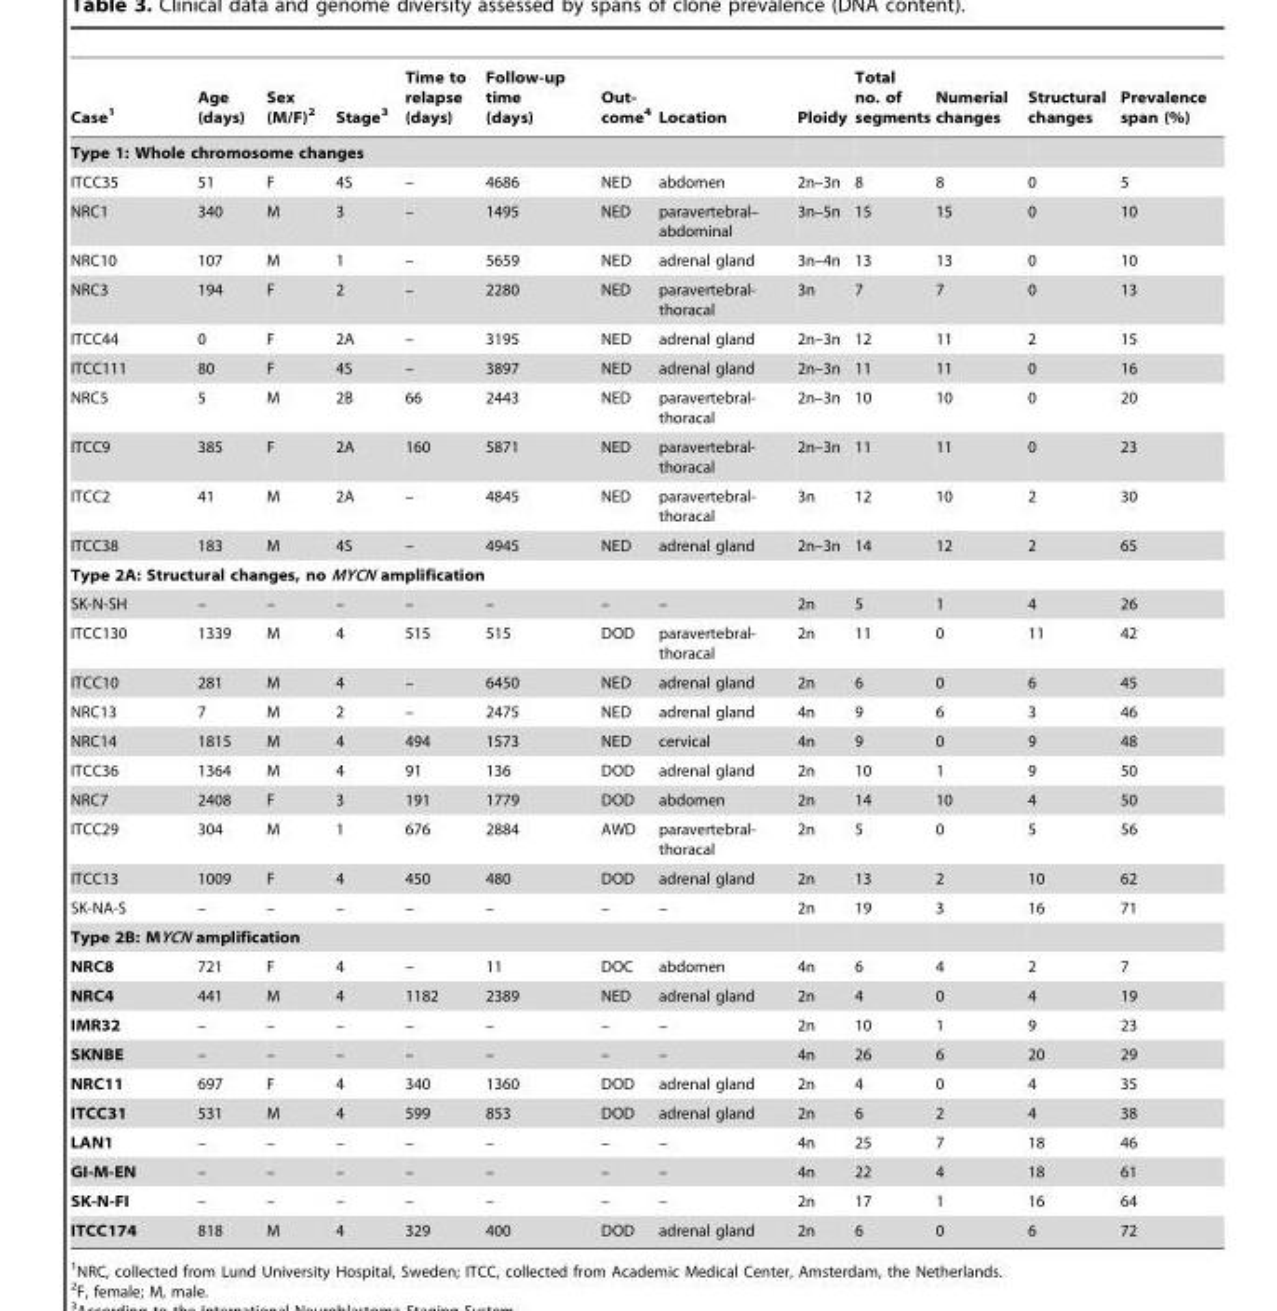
<table><thead><tr><td>Case<sup>1</sup></td><td>Age (days)</td><td>Sex (M/F)<sup>2</sup></td><td>Stage<sup>3</sup></td><td>Time to relapse (days)</td><td>Follow-up time (days)</td><td>Out- come<sup>4</sup></td><td>Location</td><td>Ploidy</td><td>Total no. of segments</td><td>Numerial changes</td><td>Structural changes</td><td>Prevalence span (%)</td></tr></thead><tbody><tr><td colspan="13">Type 1: Whole chromosome changes</td></tr><tr><td>ITCC35</td><td>51</td><td>F</td><td>4S</td><td>–</td><td>4686</td><td>NED</td><td>abdomen</td><td>2n–3n</td><td>8</td><td>8</td><td>0</td><td>5</td></tr><tr><td>NRC1</td><td>340</td><td>M</td><td>3</td><td>–</td><td>1495</td><td>NED</td><td>paravertebral– abdominal</td><td>3n–5n</td><td>15</td><td>15</td><td>0</td><td>10</td></tr><tr><td>NRC10</td><td>107</td><td>M</td><td>1</td><td>–</td><td>5659</td><td>NED</td><td>adrenal gland</td><td>3n–4n</td><td>13</td><td>13</td><td>0</td><td>10</td></tr><tr><td>NRC3</td><td>194</td><td>F</td><td>2</td><td>–</td><td>2280</td><td>NED</td><td>paravertebral- thoracal</td><td>3n</td><td>7</td><td>7</td><td>0</td><td>13</td></tr><tr><td>ITCC44</td><td>0</td><td>F</td><td>2A</td><td>–</td><td>3195</td><td>NED</td><td>adrenal gland</td><td>2n–3n</td><td>12</td><td>11</td><td>2</td><td>15</td></tr><tr><td>ITCC111</td><td>80</td><td>F</td><td>4S</td><td>–</td><td>3897</td><td>NED</td><td>adrenal gland</td><td>2n–3n</td><td>11</td><td>11</td><td>0</td><td>16</td></tr><tr><td>NRC5</td><td>5</td><td>M</td><td>2B</td><td>66</td><td>2443</td><td>NED</td><td>paravertebral- thoracal</td><td>2n–3n</td><td>10</td><td>10</td><td>0</td><td>20</td></tr><tr><td>ITCC9</td><td>385</td><td>F</td><td>2A</td><td>160</td><td>5871</td><td>NED</td><td>paravertebral- thoracal</td><td>2n–3n</td><td>11</td><td>11</td><td>0</td><td>23</td></tr><tr><td>ITCC2</td><td>41</td><td>M</td><td>2A</td><td>–</td><td>4845</td><td>NED</td><td>paravertebral- thoracal</td><td>3n</td><td>12</td><td>10</td><td>2</td><td>30</td></tr><tr><td>ITCC38</td><td>183</td><td>M</td><td>4S</td><td>–</td><td>4945</td><td>NED</td><td>adrenal gland</td><td>2n–3n</td><td>14</td><td>12</td><td>2</td><td>65</td></tr><tr><td colspan="13">Type 2A: Structural changes, no MYCN amplification</td></tr><tr><td>SK-N-SH</td><td>–</td><td>–</td><td>–</td><td>–</td><td>–</td><td>–</td><td>–</td><td>2n</td><td>5</td><td>1</td><td>4</td><td>26</td></tr><tr><td>ITCC130</td><td>1339</td><td>M</td><td>4</td><td>515</td><td>515</td><td>DOD</td><td>paravertebral- thoracal</td><td>2n</td><td>11</td><td>0</td><td>11</td><td>42</td></tr><tr><td>ITCC10</td><td>281</td><td>M</td><td>4</td><td>–</td><td>6450</td><td>NED</td><td>adrenal gland</td><td>2n</td><td>6</td><td>0</td><td>6</td><td>45</td></tr><tr><td>NRC13</td><td>7</td><td>M</td><td>2</td><td>–</td><td>2475</td><td>NED</td><td>adrenal gland</td><td>4n</td><td>9</td><td>6</td><td>3</td><td>46</td></tr><tr><td>NRC14</td><td>1815</td><td>M</td><td>4</td><td>494</td><td>1573</td><td>NED</td><td>cervical</td><td>4n</td><td>9</td><td>0</td><td>9</td><td>48</td></tr><tr><td>ITCC36</td><td>1364</td><td>M</td><td>4</td><td>91</td><td>136</td><td>DOD</td><td>adrenal gland</td><td>2n</td><td>10</td><td>1</td><td>9</td><td>50</td></tr><tr><td>NRC7</td><td>2408</td><td>F</td><td>3</td><td>191</td><td>1779</td><td>DOD</td><td>abdomen</td><td>2n</td><td>14</td><td>10</td><td>4</td><td>50</td></tr><tr><td>ITCC29</td><td>304</td><td>M</td><td>1</td><td>676</td><td>2884</td><td>AWD</td><td>paravertebral- thoracal</td><td>2n</td><td>5</td><td>0</td><td>5</td><td>56</td></tr><tr><td>ITCC13</td><td>1009</td><td>F</td><td>4</td><td>450</td><td>480</td><td>DOD</td><td>adrenal gland</td><td>2n</td><td>13</td><td>2</td><td>10</td><td>62</td></tr><tr><td>SK-NA-S</td><td>–</td><td>–</td><td>–</td><td>–</td><td>–</td><td>–</td><td>–</td><td>2n</td><td>19</td><td>3</td><td>16</td><td>71</td></tr><tr><td colspan="13">Type 2B: MYCN amplification</td></tr><tr><td>NRC8</td><td>721</td><td>F</td><td>4</td><td>–</td><td>11</td><td>DOC</td><td>abdomen</td><td>4n</td><td>6</td><td>4</td><td>2</td><td>7</td></tr><tr><td>NRC4</td><td>441</td><td>M</td><td>4</td><td>1182</td><td>2389</td><td>NED</td><td>adrenal gland</td><td>2n</td><td>4</td><td>0</td><td>4</td><td>19</td></tr><tr><td>IMR32</td><td>–</td><td>–</td><td>–</td><td>–</td><td>–</td><td>–</td><td>–</td><td>2n</td><td>10</td><td>1</td><td>9</td><td>23</td></tr><tr><td>SKNBE</td><td>–</td><td>–</td><td>–</td><td>–</td><td>–</td><td>–</td><td>–</td><td>4n</td><td>26</td><td>6</td><td>20</td><td>29</td></tr><tr><td>NRC11</td><td>697</td><td>F</td><td>4</td><td>340</td><td>1360</td><td>DOD</td><td>adrenal gland</td><td>2n</td><td>4</td><td>0</td><td>4</td><td>35</td></tr><tr><td>ITCC31</td><td>531</td><td>M</td><td>4</td><td>599</td><td>853</td><td>DOD</td><td>adrenal gland</td><td>2n</td><td>6</td><td>2</td><td>4</td><td>38</td></tr><tr><td>LAN1</td><td>–</td><td>–</td><td>–</td><td>–</td><td>–</td><td>–</td><td>–</td><td>4n</td><td>25</td><td>7</td><td>18</td><td>46</td></tr><tr><td>GI-M-EN</td><td>–</td><td>–</td><td>–</td><td>–</td><td>–</td><td>–</td><td>–</td><td>4n</td><td>22</td><td>4</td><td>18</td><td>61</td></tr><tr><td>SK-N-FI</td><td>–</td><td>–</td><td>–</td><td>–</td><td>–</td><td>–</td><td>–</td><td>2n</td><td>17</td><td>1</td><td>16</td><td>64</td></tr><tr><td>ITCC174</td><td>818</td><td>M</td><td>4</td><td>329</td><td>400</td><td>DOD</td><td>adrenal gland</td><td>2n</td><td>6</td><td>0</td><td>6</td><td>72</td></tr></tbody></table>